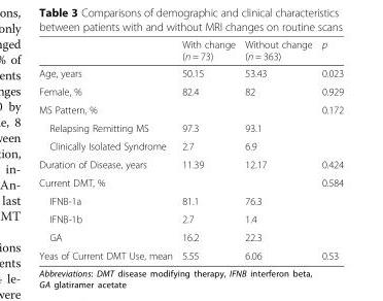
<table><thead><tr><td></td><td>With change (n = 73)</td><td>Without change (n = 363)</td><td>p</td></tr></thead><tbody><tr><td>Age, years</td><td>50.15</td><td>53.43</td><td>0.023</td></tr><tr><td>Female, %</td><td>82.4</td><td>82</td><td>0.929</td></tr><tr><td colspan="3">MS Pattern, %</td><td rowspan="3">0.172</td></tr><tr><td>Relapsing Remitting MS</td><td>97.3</td><td>93.1</td></tr><tr><td>Clinically Isolated Syndrome</td><td>2.7</td><td>6.9</td></tr><tr><td>Duration of Disease, years</td><td>11.39</td><td>12.17</td><td>0.424</td></tr><tr><td colspan="3">Current DMT, %</td><td rowspan="4">0.584</td></tr><tr><td>IFNB-1a</td><td>81.1</td><td>76.3</td></tr><tr><td>IFNB-1b</td><td>2.7</td><td>1.4</td></tr><tr><td>GA</td><td>16.2</td><td>22.3</td></tr><tr><td>Yeas of Current DMT Use, mean</td><td>5.55</td><td>6.06</td><td>0.53</td></tr></tbody></table>